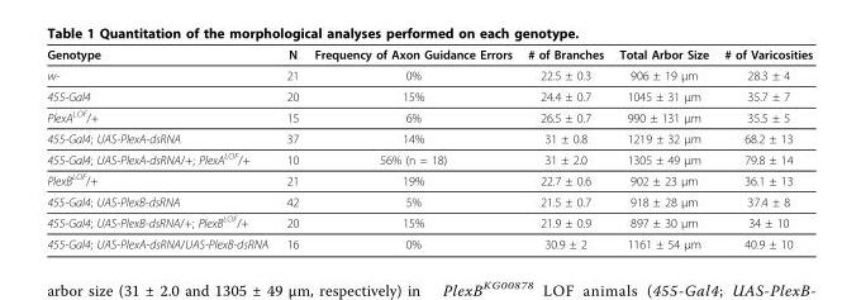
<table><thead><tr><td>Genotype</td><td>N</td><td>Frequency of Axon Guidance Errors</td><td># of Branches</td><td>Total Arbor Size</td><td># of Varicosities</td></tr></thead><tbody><tr><td>w-</td><td>21</td><td>0%</td><td>22.5 ± 0.3</td><td>906 ± 19 μm</td><td>28.3 ± 4</td></tr><tr><td>455-Gal4</td><td>20</td><td>15%</td><td>24.4 ± 0.7</td><td>1045 ± 31 μm</td><td>35.7 ± 7</td></tr><tr><td>PlexA<sup>LOF</sup>/+</td><td>15</td><td>6%</td><td>26.5 ± 0.7</td><td>990 ± 131 μm</td><td>35.5 ± 5</td></tr><tr><td>455-Gal4; UAS-PlexA-dsRNA</td><td>37</td><td>14%</td><td>31 ± 0.8</td><td>1219 ± 32 μm</td><td>68.2 ± 13</td></tr><tr><td>455-Gal4; UAS-PlexA-dsRNA/+; PlexA<sup>LOF</sup>/+</td><td>10</td><td>56% (n = 18)</td><td>31 ± 2.0</td><td>1305 ± 49 μm</td><td>79.8 ± 14</td></tr><tr><td>PlexB<sup>LOF</sup>/+</td><td>21</td><td>19%</td><td>22.7 ± 0.6</td><td>902 ± 23 μm</td><td>36.1 ± 13</td></tr><tr><td>455-Gal4; UAS-PlexB-dsRNA</td><td>42</td><td>5%</td><td>21.5 ± 0.7</td><td>918 ± 28 μm</td><td>37.4 ± 8</td></tr><tr><td>455-Gal4; UAS-PlexB-dsRNA/+; PlexB<sup>LOF</sup>/+</td><td>20</td><td>15%</td><td>21.9 ± 0.9</td><td>897 ± 30 μm</td><td>34 ± 10</td></tr><tr><td>455-Gal4; UAS-PlexA-dsRNA/UAS-PlexB-dsRNA</td><td>16</td><td>0%</td><td>30.9 ± 2</td><td>1161 ± 54 μm</td><td>40.9 ± 10</td></tr></tbody></table>